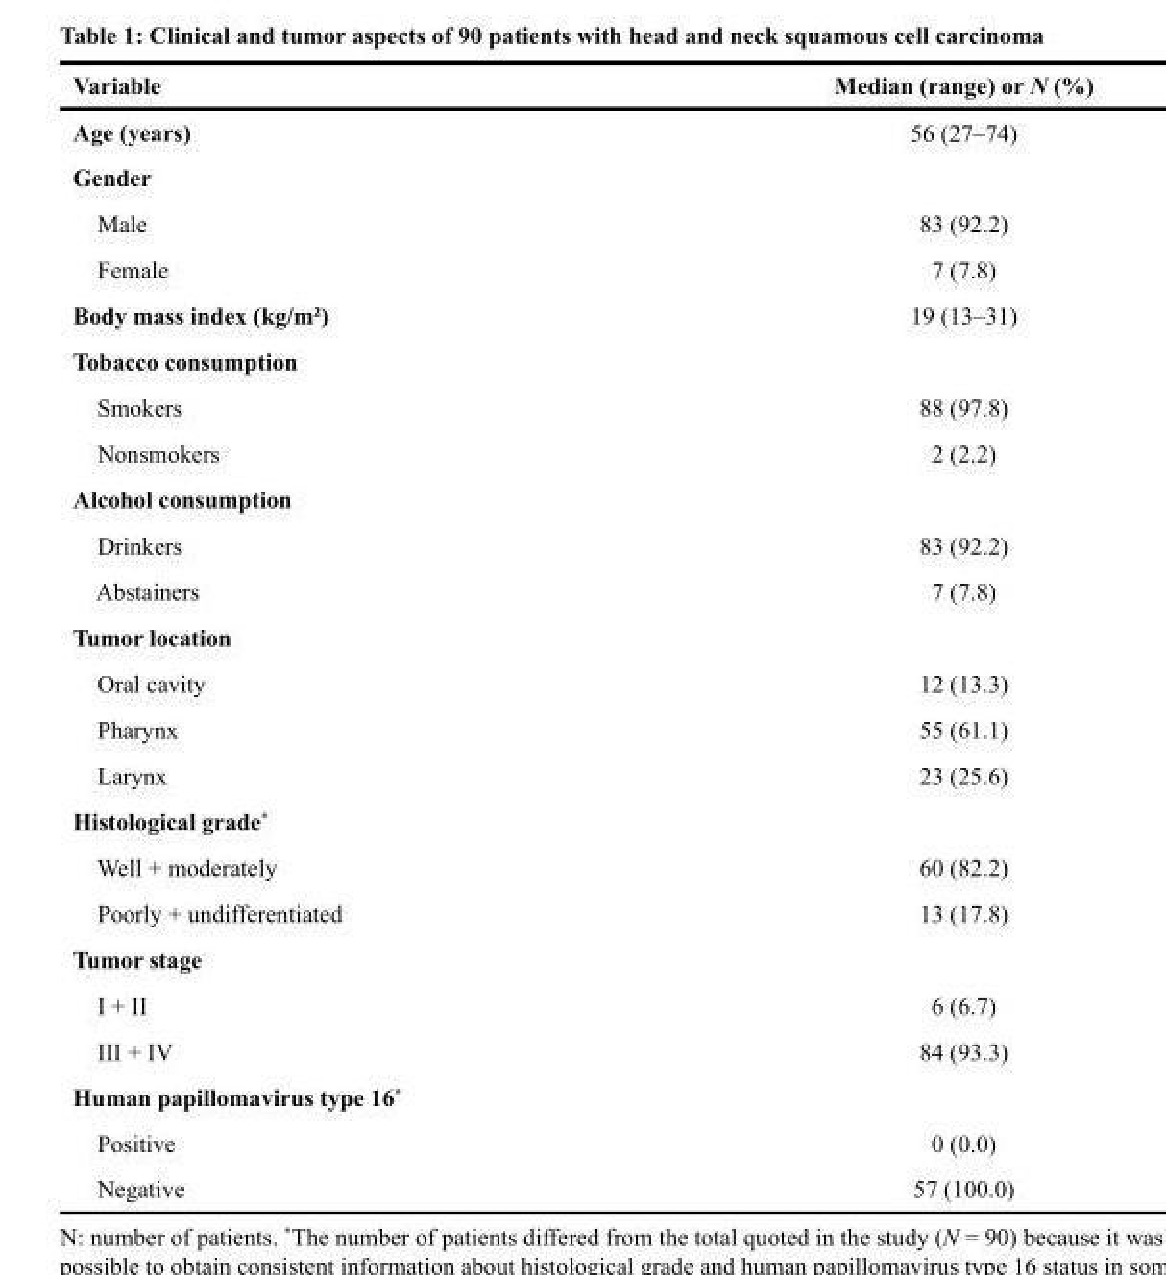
<table><thead><tr><td>Variable</td><td>Median (range) or N (%)</td></tr></thead><tbody><tr><td>Age (years)</td><td>56 (27–74)</td></tr><tr><td colspan="2">Gender</td></tr><tr><td>Male</td><td>83 (92.2)</td></tr><tr><td>Female</td><td>7 (7.8)</td></tr><tr><td>Body mass index (kg/m²)</td><td>19 (13–31)</td></tr><tr><td colspan="2">Tobacco consumption</td></tr><tr><td>Smokers</td><td>88 (97.8)</td></tr><tr><td>Nonsmokers</td><td>2 (2.2)</td></tr><tr><td colspan="2">Alcohol consumption</td></tr><tr><td>Drinkers</td><td>83 (92.2)</td></tr><tr><td>Abstainers</td><td>7 (7.8)</td></tr><tr><td colspan="2">Tumor location</td></tr><tr><td>Oral cavity</td><td>12 (13.3)</td></tr><tr><td>Pharynx</td><td>55 (61.1)</td></tr><tr><td>Larynx</td><td>23 (25.6)</td></tr><tr><td colspan="2">Histological grade*</td></tr><tr><td>Well + moderately</td><td>60 (82.2)</td></tr><tr><td>Poorly + undifferentiated</td><td>13 (17.8)</td></tr><tr><td colspan="2">Tumor stage</td></tr><tr><td>I + II</td><td>6 (6.7)</td></tr><tr><td>III + IV</td><td>84 (93.3)</td></tr><tr><td colspan="2">Human papillomavirus type 16*</td></tr><tr><td>Positive</td><td>0 (0.0)</td></tr><tr><td>Negative</td><td>57 (100.0)</td></tr></tbody></table>